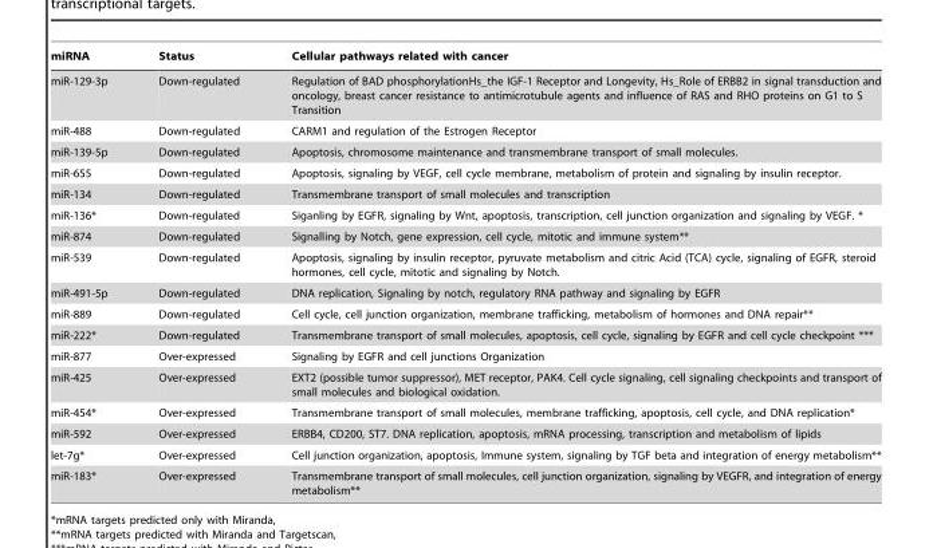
<table><thead><tr><td>miRNA</td><td>Status</td><td>Cellular pathways related with cancer</td></tr></thead><tbody><tr><td>miR-129-3p</td><td>Down-regulated</td><td>Regulation of BAD phosphorylationHs_the IGF-1 Receptor and Longevity, Hs_Role of ERBB2 in signal transduction and oncology, breast cancer resistance to antimicrotubule agents and influence of RAS and RHO proteins on G1 to S Transition</td></tr><tr><td>miR-488</td><td>Down-regulated</td><td>CARM1 and regulation of the Estrogen Receptor</td></tr><tr><td>miR-139-5p</td><td>Down-regulated</td><td>Apoptosis, chromosome maintenance and transmembrane transport of small molecules.</td></tr><tr><td>miR-655</td><td>Down-regulated</td><td>Apoptosis, signaling by VEGF, cell cycle membrane, metabolism of protein and signaling by insulin receptor.</td></tr><tr><td>miR-134</td><td>Down-regulated</td><td>Transmembrane transport of small molecules and transcription</td></tr><tr><td>miR-136*</td><td>Down-regulated</td><td>Siganling by EGFR, signaling by Wnt, apoptosis, transcription, cell junction organization and signaling by VEGF. *</td></tr><tr><td>miR-874</td><td>Down-regulated</td><td>Signalling by Notch, gene expression, cell cycle, mitotic and immune system**</td></tr><tr><td>miR-539</td><td>Down-regulated</td><td>Apoptosis, signaling by insulin receptor, pyruvate metabolism and citric Acid (TCA) cycle, signaling of EGFR, steroid hormones, cell cycle, mitotic and signaling by Notch.</td></tr><tr><td>miR-491-5p</td><td>Down-regulated</td><td>DNA replication, Signaling by notch, regulatory RNA pathway and signaling by EGFR</td></tr><tr><td>miR-889</td><td>Down-regulated</td><td>Cell cycle, cell junction organization, membrane trafficking, metabolism of hormones and DNA repair**</td></tr><tr><td>miR-222*</td><td>Down-regulated</td><td>Transmembrane transport of small molecules, apoptosis, cell cycle, signaling by EGFR and cell cycle checkpoint ***</td></tr><tr><td>miR-877</td><td>Over-expressed</td><td>Signaling by EGFR and cell junctions Organization</td></tr><tr><td>miR-425</td><td>Over-expressed</td><td>EXT2 (possible tumor suppressor), MET receptor, PAK4. Cell cycle signaling, cell signaling checkpoints and transport of small molecules and biological oxidation.</td></tr><tr><td>miR-454*</td><td>Over-expressed</td><td>Transmembrane transport of small molecules, membrane trafficking, apoptosis, cell cycle, and DNA replication*</td></tr><tr><td>miR-592</td><td>Over-expressed</td><td>ERBB4, CD200, ST7. DNA replication, apoptosis, mRNA processing, transcription and metabolism of lipids</td></tr><tr><td>let-7g*</td><td>Over-expressed</td><td>Cell junction organization, apoptosis, Immune system, signaling by TGF beta and integration of energy metabolism**</td></tr><tr><td>miR-183*</td><td>Over-expressed</td><td>Transmembrane transport of small molecules, cell junction organization, signaling by VEGFR, and integration of energy metabolism**</td></tr></tbody></table>